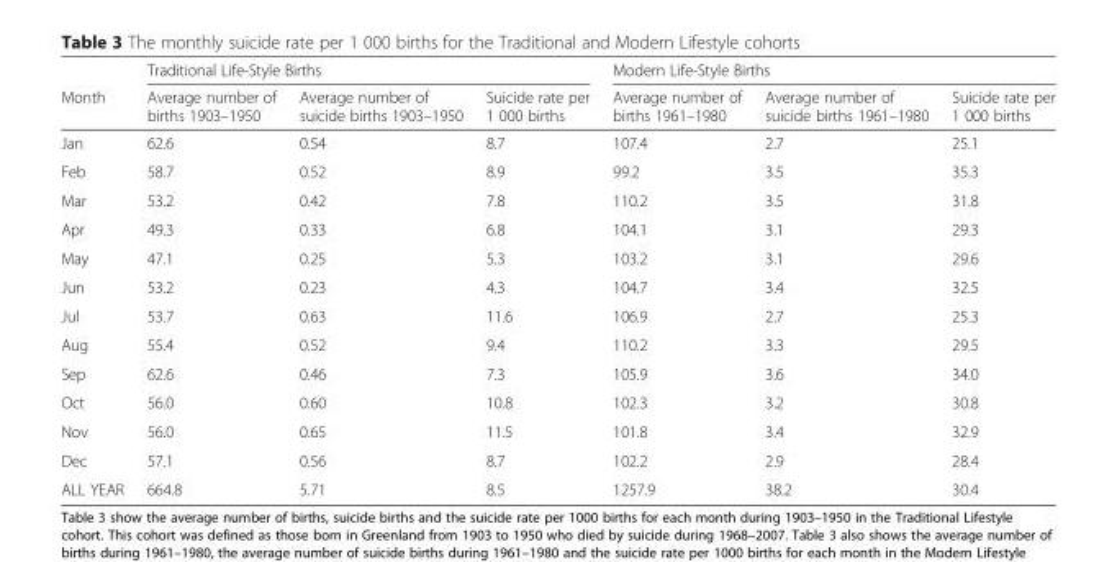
<table><thead><tr><td rowspan="2">Month</td><td colspan="3">Traditional Life-Style Births</td><td colspan="3">Modern Life-Style Births</td></tr><tr><td>Average number of births 1903–1950</td><td>Average number of suicide births 1903–1950</td><td>Suicide rate per 1 000 births</td><td>Average number of births 1961–1980</td><td>Average number of suicide births 1961–1980</td><td>Suicide rate per 1 000 births</td></tr></thead><tbody><tr><td>Jan</td><td>62.6</td><td>0.54</td><td>8.7</td><td>107.4</td><td>2.7</td><td>25.1</td></tr><tr><td>Feb</td><td>58.7</td><td>0.52</td><td>8.9</td><td>99.2</td><td>3.5</td><td>35.3</td></tr><tr><td>Mar</td><td>53.2</td><td>0.42</td><td>7.8</td><td>110.2</td><td>3.5</td><td>31.8</td></tr><tr><td>Apr</td><td>49.3</td><td>0.33</td><td>6.8</td><td>104.1</td><td>3.1</td><td>29.3</td></tr><tr><td>May</td><td>47.1</td><td>0.25</td><td>5.3</td><td>103.2</td><td>3.1</td><td>29.6</td></tr><tr><td>Jun</td><td>53.2</td><td>0.23</td><td>4.3</td><td>104.7</td><td>3.4</td><td>32.5</td></tr><tr><td>Jul</td><td>53.7</td><td>0.63</td><td>11.6</td><td>106.9</td><td>2.7</td><td>25.3</td></tr><tr><td>Aug</td><td>55.4</td><td>0.52</td><td>9.4</td><td>110.2</td><td>3.3</td><td>29.5</td></tr><tr><td>Sep</td><td>62.6</td><td>0.46</td><td>7.3</td><td>105.9</td><td>3.6</td><td>34.0</td></tr><tr><td>Oct</td><td>56.0</td><td>0.60</td><td>10.8</td><td>102.3</td><td>3.2</td><td>30.8</td></tr><tr><td>Nov</td><td>56.0</td><td>0.65</td><td>11.5</td><td>101.8</td><td>3.4</td><td>32.9</td></tr><tr><td>Dec</td><td>57.1</td><td>0.56</td><td>8.7</td><td>102.2</td><td>2.9</td><td>28.4</td></tr><tr><td>ALL YEAR</td><td>664.8</td><td>5.71</td><td>8.5</td><td>1257.9</td><td>38.2</td><td>30.4</td></tr></tbody></table>